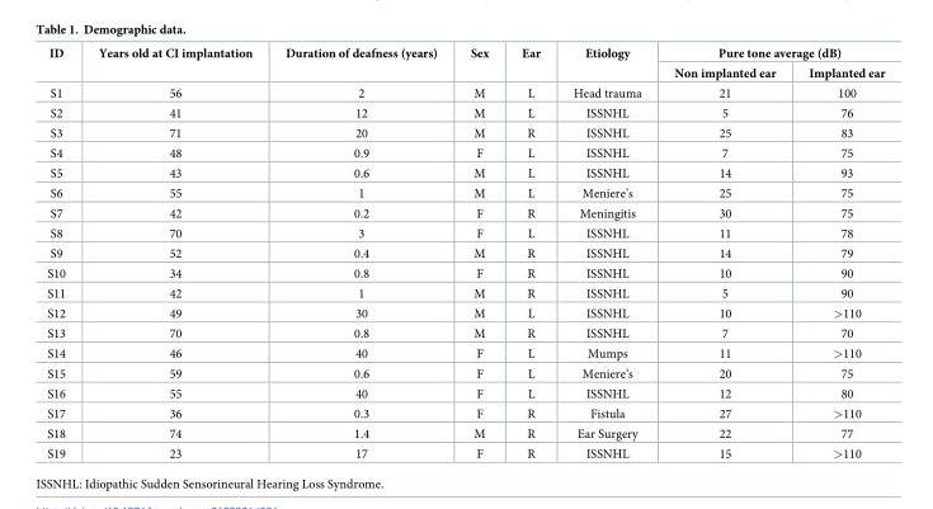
<table><thead><tr><td rowspan="2">ID</td><td rowspan="2">Years old at CI implantation</td><td rowspan="2">Duration of deafness (years)</td><td rowspan="2">Sex</td><td rowspan="2">Ear</td><td rowspan="2">Etiology</td><td colspan="2">Pure tone average (dB)</td></tr><tr><td>Non implanted ear</td><td>Implanted ear</td></tr></thead><tbody><tr><td>S1</td><td>56</td><td>2</td><td>M</td><td>L</td><td>Head trauma</td><td>21</td><td>100</td></tr><tr><td>S2</td><td>41</td><td>12</td><td>M</td><td>L</td><td>ISSNHL</td><td>5</td><td>76</td></tr><tr><td>S3</td><td>71</td><td>20</td><td>M</td><td>R</td><td>ISSNHL</td><td>25</td><td>83</td></tr><tr><td>S4</td><td>48</td><td>0.9</td><td>F</td><td>L</td><td>ISSNHL</td><td>7</td><td>75</td></tr><tr><td>S5</td><td>43</td><td>0.6</td><td>M</td><td>L</td><td>ISSNHL</td><td>14</td><td>93</td></tr><tr><td>S6</td><td>55</td><td>1</td><td>M</td><td>L</td><td>Meniere’s</td><td>25</td><td>75</td></tr><tr><td>S7</td><td>42</td><td>0.2</td><td>F</td><td>R</td><td>Meningitis</td><td>30</td><td>75</td></tr><tr><td>S8</td><td>70</td><td>3</td><td>F</td><td>L</td><td>ISSNHL</td><td>11</td><td>78</td></tr><tr><td>S9</td><td>52</td><td>0.4</td><td>M</td><td>R</td><td>ISSNHL</td><td>14</td><td>79</td></tr><tr><td>S10</td><td>34</td><td>0.8</td><td>F</td><td>R</td><td>ISSNHL</td><td>10</td><td>90</td></tr><tr><td>S11</td><td>42</td><td>1</td><td>M</td><td>R</td><td>ISSNHL</td><td>5</td><td>90</td></tr><tr><td>S12</td><td>49</td><td>30</td><td>M</td><td>L</td><td>ISSNHL</td><td>10</td><td>&gt;110</td></tr><tr><td>S13</td><td>70</td><td>0.8</td><td>M</td><td>R</td><td>ISSNHL</td><td>7</td><td>70</td></tr><tr><td>S14</td><td>46</td><td>40</td><td>F</td><td>L</td><td>Mumps</td><td>11</td><td>&gt;110</td></tr><tr><td>S15</td><td>59</td><td>0.6</td><td>F</td><td>L</td><td>Meniere’s</td><td>20</td><td>75</td></tr><tr><td>S16</td><td>55</td><td>40</td><td>F</td><td>L</td><td>ISSNHL</td><td>12</td><td>80</td></tr><tr><td>S17</td><td>36</td><td>0.3</td><td>F</td><td>R</td><td>Fistula</td><td>27</td><td>&gt;110</td></tr><tr><td>S18</td><td>74</td><td>1.4</td><td>M</td><td>R</td><td>Ear Surgery</td><td>22</td><td>77</td></tr><tr><td>S19</td><td>23</td><td>17</td><td>F</td><td>R</td><td>ISSNHL</td><td>15</td><td>&gt;110</td></tr></tbody></table>